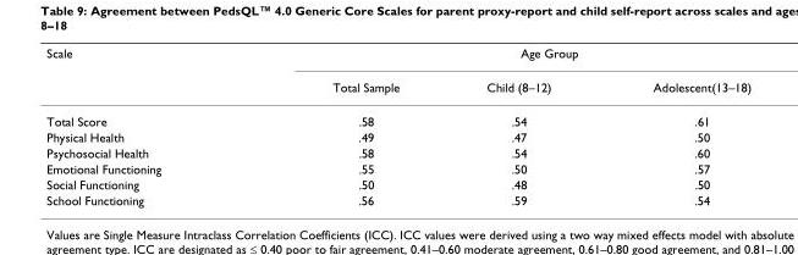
<table><thead><tr><td rowspan="2">Scale</td><td colspan="3">Age Group</td></tr><tr><td>Total Sample</td><td>Child (8–12)</td><td>Adolescent(13–18)</td></tr></thead><tbody><tr><td>Total Score</td><td>.58</td><td>.54</td><td>.61</td></tr><tr><td>Physical Health</td><td>.49</td><td>.47</td><td>.50</td></tr><tr><td>Psychosocial Health</td><td>.58</td><td>.54</td><td>.60</td></tr><tr><td>Emotional Functioning</td><td>.55</td><td>.50</td><td>.57</td></tr><tr><td>Social Functioning</td><td>.50</td><td>.48</td><td>.50</td></tr><tr><td>School Functioning</td><td>.56</td><td>.59</td><td>.54</td></tr></tbody></table>